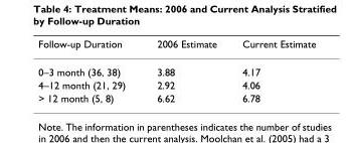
<table><thead><tr><td>Follow-up Duration</td><td>2006 Estimate</td><td>Current Estimate</td></tr></thead><tbody><tr><td>0–3 month (36, 38)</td><td>3.88</td><td>4.17</td></tr><tr><td>4–12 month (21, 29)</td><td>2.92</td><td>4.06</td></tr><tr><td>&gt; 12 month (5, 8)</td><td>6.62</td><td>6.78</td></tr></tbody></table>